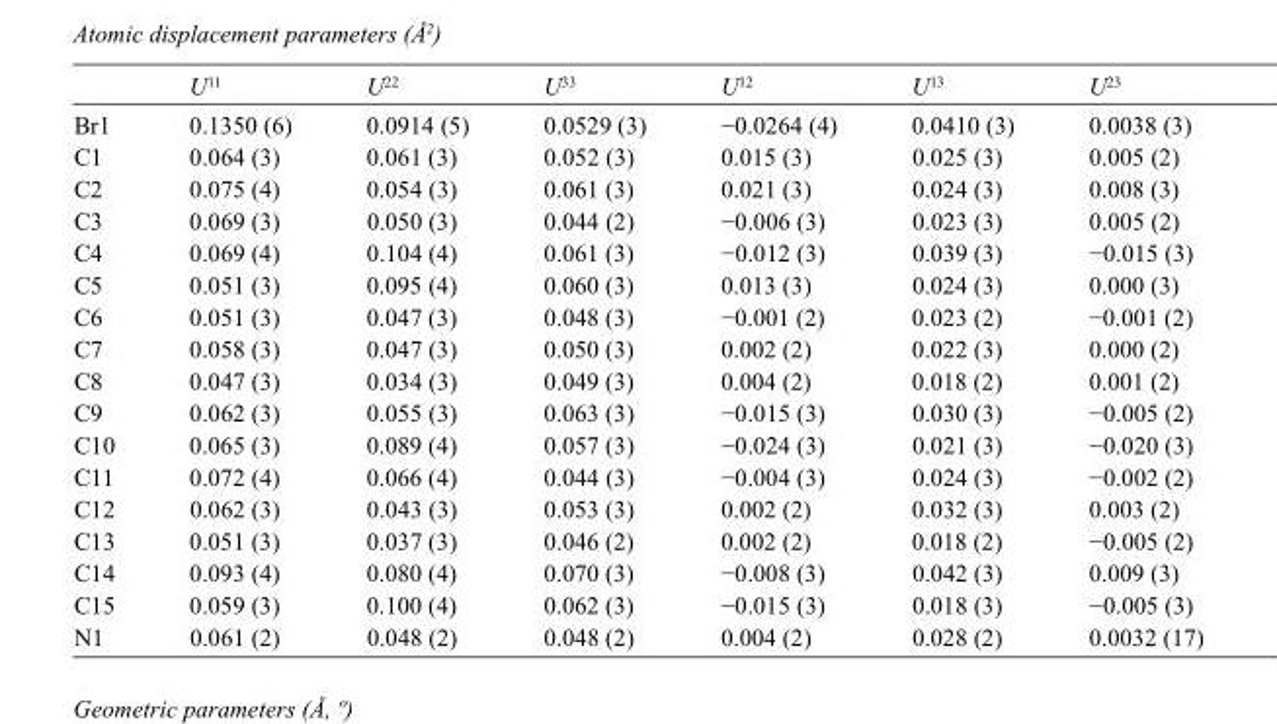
<table><thead><tr><td></td><td>U<sup>11</sup></td><td>U<sup>22</sup></td><td>U<sup>33</sup></td><td>U<sup>12</sup></td><td>U<sup>13</sup></td><td>U<sup>23</sup></td></tr></thead><tbody><tr><td>Br1</td><td>0.1350 (6)</td><td>0.0914 (5)</td><td>0.0529 (3)</td><td>−0.0264 (4)</td><td>0.0410 (3)</td><td>0.0038 (3)</td></tr><tr><td>C1</td><td>0.064 (3)</td><td>0.061 (3)</td><td>0.052 (3)</td><td>0.015 (3)</td><td>0.025 (3)</td><td>0.005 (2)</td></tr><tr><td>C2</td><td>0.075 (4)</td><td>0.054 (3)</td><td>0.061 (3)</td><td>0.021 (3)</td><td>0.024 (3)</td><td>0.008 (3)</td></tr><tr><td>C3</td><td>0.069 (3)</td><td>0.050 (3)</td><td>0.044 (2)</td><td>−0.006 (3)</td><td>0.023 (3)</td><td>0.005 (2)</td></tr><tr><td>C4</td><td>0.069 (4)</td><td>0.104 (4)</td><td>0.061 (3)</td><td>−0.012 (3)</td><td>0.039 (3)</td><td>−0.015 (3)</td></tr><tr><td>C5</td><td>0.051 (3)</td><td>0.095 (4)</td><td>0.060 (3)</td><td>0.013 (3)</td><td>0.024 (3)</td><td>0.000 (3)</td></tr><tr><td>C6</td><td>0.051 (3)</td><td>0.047 (3)</td><td>0.048 (3)</td><td>−0.001 (2)</td><td>0.023 (2)</td><td>−0.001 (2)</td></tr><tr><td>C7</td><td>0.058 (3)</td><td>0.047 (3)</td><td>0.050 (3)</td><td>0.002 (2)</td><td>0.022 (3)</td><td>0.000 (2)</td></tr><tr><td>C8</td><td>0.047 (3)</td><td>0.034 (3)</td><td>0.049 (3)</td><td>0.004 (2)</td><td>0.018 (2)</td><td>0.001 (2)</td></tr><tr><td>C9</td><td>0.062 (3)</td><td>0.055 (3)</td><td>0.063 (3)</td><td>−0.015 (3)</td><td>0.030 (3)</td><td>−0.005 (2)</td></tr><tr><td>C10</td><td>0.065 (3)</td><td>0.089 (4)</td><td>0.057 (3)</td><td>−0.024 (3)</td><td>0.021 (3)</td><td>−0.020 (3)</td></tr><tr><td>C11</td><td>0.072 (4)</td><td>0.066 (4)</td><td>0.044 (3)</td><td>−0.004 (3)</td><td>0.024 (3)</td><td>−0.002 (2)</td></tr><tr><td>C12</td><td>0.062 (3)</td><td>0.043 (3)</td><td>0.053 (3)</td><td>0.002 (2)</td><td>0.032 (3)</td><td>0.003 (2)</td></tr><tr><td>C13</td><td>0.051 (3)</td><td>0.037 (3)</td><td>0.046 (2)</td><td>0.002 (2)</td><td>0.018 (2)</td><td>−0.005 (2)</td></tr><tr><td>C14</td><td>0.093 (4)</td><td>0.080 (4)</td><td>0.070 (3)</td><td>−0.008 (3)</td><td>0.042 (3)</td><td>0.009 (3)</td></tr><tr><td>C15</td><td>0.059 (3)</td><td>0.100 (4)</td><td>0.062 (3)</td><td>−0.015 (3)</td><td>0.018 (3)</td><td>−0.005 (3)</td></tr><tr><td>N1</td><td>0.061 (2)</td><td>0.048 (2)</td><td>0.048 (2)</td><td>0.004 (2)</td><td>0.028 (2)</td><td>0.0032 (17)</td></tr></tbody></table>